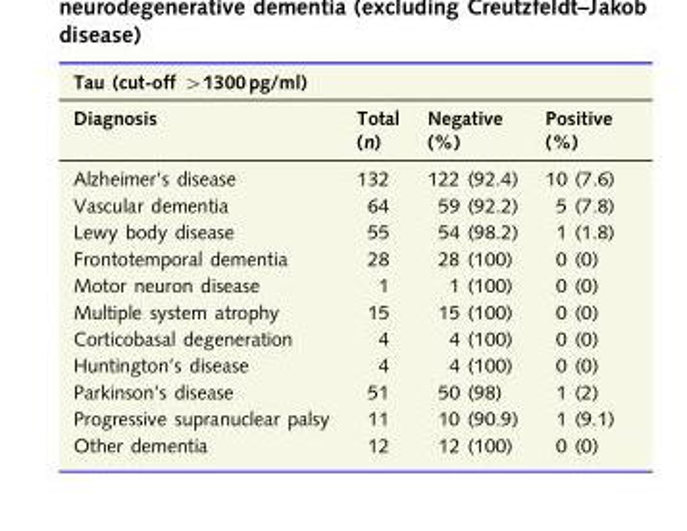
<table><thead><tr><td colspan="4">Tau (cut-off &gt;1300 pg/ml)</td></tr><tr><td>Diagnosis</td><td>Total (n)</td><td>Negative (%)</td><td>Positive (%)</td></tr></thead><tbody><tr><td>Alzheimer’s disease</td><td>132</td><td>122 (92.4)</td><td>10 (7.6)</td></tr><tr><td>Vascular dementia</td><td>64</td><td>59 (92.2)</td><td>5 (7.8)</td></tr><tr><td>Lewy body disease</td><td>55</td><td>54 (98.2)</td><td>1 (1.8)</td></tr><tr><td>Frontotemporal dementia</td><td>28</td><td>28 (100)</td><td>0 (0)</td></tr><tr><td>Motor neuron disease</td><td>1</td><td>1 (100)</td><td>0 (0)</td></tr><tr><td>Multiple system atrophy</td><td>15</td><td>15 (100)</td><td>0 (0)</td></tr><tr><td>Corticobasal degeneration</td><td>4</td><td>4 (100)</td><td>0 (0)</td></tr><tr><td>Huntington’s disease</td><td>4</td><td>4 (100)</td><td>0 (0)</td></tr><tr><td>Parkinson’s disease</td><td>51</td><td>50 (98)</td><td>1 (2)</td></tr><tr><td>Progressive supranuclear palsy</td><td>11</td><td>10 (90.9)</td><td>1 (9.1)</td></tr><tr><td>Other dementia</td><td>12</td><td>12 (100)</td><td>0 (0)</td></tr></tbody></table>